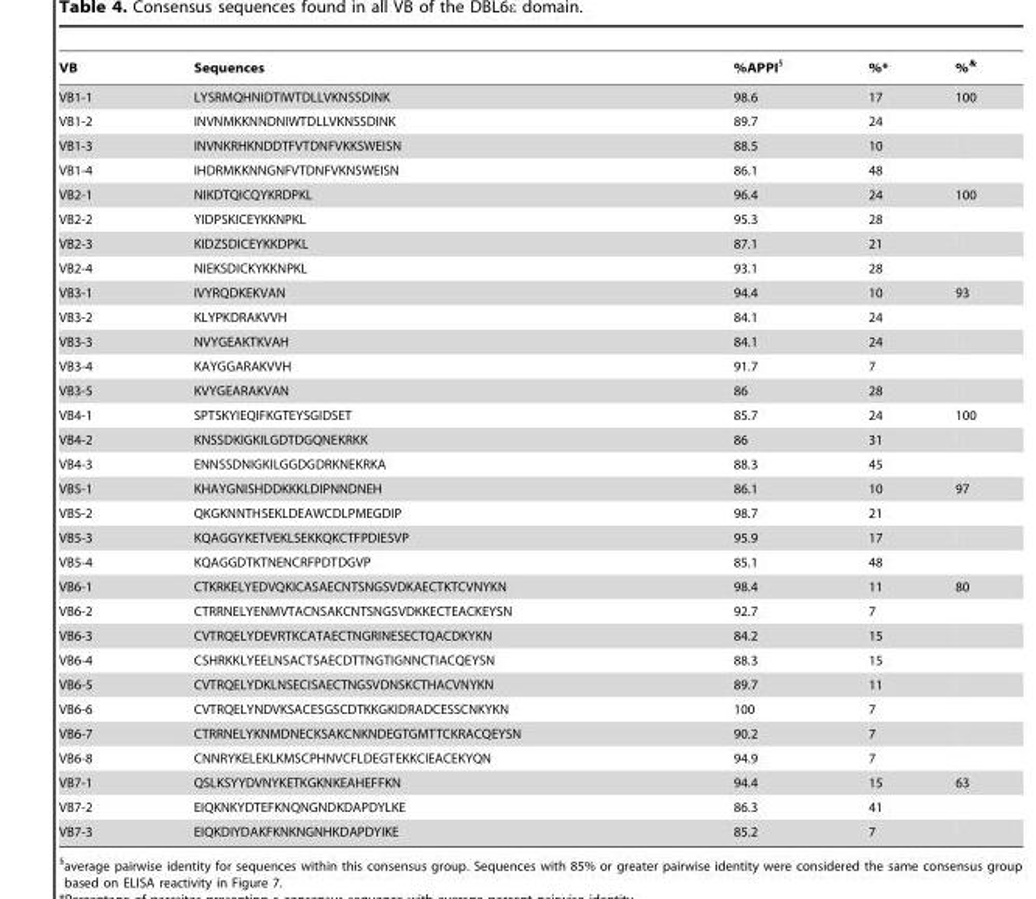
<table><thead><tr><td>VB</td><td>Sequences</td><td>%APPI§</td><td>%*</td><td>%&amp;</td></tr></thead><tbody><tr><td>VB1-1</td><td>LYSRMQHNIDTIWTDLLVKNSSDINK</td><td>98.6</td><td>17</td><td>100</td></tr><tr><td>VB1-2</td><td>INVNMKKNNDNIWTDLLVKNSSDINK</td><td>89.7</td><td>24</td><td></td></tr><tr><td>VB1-3</td><td>INVNKRHKNDDTFVTDNFVKKSWEISN</td><td>88.5</td><td>10</td><td></td></tr><tr><td>VB1-4</td><td>IHDRMKKNNGNFVTDNFVKNSWEISN</td><td>86.1</td><td>48</td><td></td></tr><tr><td>VB2-1</td><td>NIKDTQICQYKRDPKL</td><td>96.4</td><td>24</td><td>100</td></tr><tr><td>VB2-2</td><td>YIDPSKICEYKKNPKL</td><td>95.3</td><td>28</td><td></td></tr><tr><td>VB2-3</td><td>KIDZSDICEYKKDPKL</td><td>87.1</td><td>21</td><td></td></tr><tr><td>VB2-4</td><td>NIEKSDICKYKKNPKL</td><td>93.1</td><td>28</td><td></td></tr><tr><td>VB3-1</td><td>IVYRQDKEKVAN</td><td>94.4</td><td>10</td><td>93</td></tr><tr><td>VB3-2</td><td>KLYPKDRAKVVH</td><td>84.1</td><td>24</td><td></td></tr><tr><td>VB3-3</td><td>NVYGEAKTKVAH</td><td>84.1</td><td>24</td><td></td></tr><tr><td>VB3-4</td><td>KAYGGARAKVVH</td><td>91.7</td><td>7</td><td></td></tr><tr><td>VB3-5</td><td>KVYGEARAKVAN</td><td>86</td><td>28</td><td></td></tr><tr><td>VB4-1</td><td>SPTSKYIEQIFKGTEYSGIDSET</td><td>85.7</td><td>24</td><td>100</td></tr><tr><td>VB4-2</td><td>KNSSDKIGKILGDTDGQNEKRKK</td><td>86</td><td>31</td><td></td></tr><tr><td>VB4-3</td><td>ENNSSDNIGKILGGDGDRKNEKRKA</td><td>88.3</td><td>45</td><td></td></tr><tr><td>VB5-1</td><td>KHAYGNISHDDKKKLDIPNNDNEH</td><td>86.1</td><td>10</td><td>97</td></tr><tr><td>VB5-2</td><td>QKGKNNTHSEKLDEAWCDLPMEGDIP</td><td>98.7</td><td>21</td><td></td></tr><tr><td>VB5-3</td><td>KQAGGYKETVEKLSEKKQKCTFPDIESVP</td><td>95.9</td><td>17</td><td></td></tr><tr><td>VB5-4</td><td>KQAGGDTKTNENCRFPDTDGVP</td><td>85.1</td><td>48</td><td></td></tr><tr><td>VB6-1</td><td>CTKRKELYEDVQKICASAECNTSNGSVDKAECTKTCVNYKN</td><td>98.4</td><td>11</td><td>80</td></tr><tr><td>VB6-2</td><td>CTRRNELYENMVTACNSAKCNTSNGSVDKKECTEACKEYSN</td><td>92.7</td><td>7</td><td></td></tr><tr><td>VB6-3</td><td>CVTRQELYDEVRTKCATAECTNGRINESECTQACDKYKN</td><td>84.2</td><td>15</td><td></td></tr><tr><td>VB6-4</td><td>CSHRKKLYEELNSACTSAECDTTNGTIGNNCTIACQEYSN</td><td>88.3</td><td>15</td><td></td></tr><tr><td>VB6-5</td><td>CVTRQELYDKLNSECISAECTNGSVDNSKCTHACVNYKN</td><td>89.7</td><td>11</td><td></td></tr><tr><td>VB6-6</td><td>CVTRQELYNDVKSACESGSCDTKKGKIDRADCESSCNKYKN</td><td>100</td><td>7</td><td></td></tr><tr><td>VB6-7</td><td>CTRRNELYKNMDNECKSAKCNKNDEGTGMTTCKRACQEYSN</td><td>90.2</td><td>7</td><td></td></tr><tr><td>VB6-8</td><td>CNNRYKELEKLKMSCPHNVCFLDEGTEKKCIEACEKYQN</td><td>94.9</td><td>7</td><td></td></tr><tr><td>VB7-1</td><td>QSLKSYYDVNYKETKGKNKEAHEFFKN</td><td>94.4</td><td>15</td><td>63</td></tr><tr><td>VB7-2</td><td>EIQKNKYDTEFKNQNGNDKDAPDYLKE</td><td>86.3</td><td>41</td><td></td></tr><tr><td>VB7-3</td><td>EIQKDIYDAKFKNKNGNHKDAPDYIKE</td><td>85.2</td><td>7</td><td></td></tr></tbody></table>